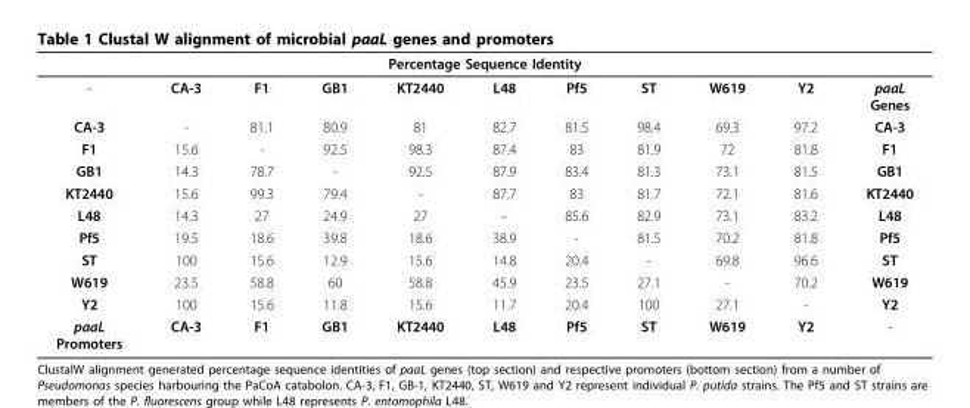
<table><thead><tr><td colspan="11">Percentage Sequence Identity</td></tr><tr><td>-</td><td>CA-3</td><td>F1</td><td>GB1</td><td>KT2440</td><td>L48</td><td>Pf5</td><td>ST</td><td>W619</td><td>Y2</td><td>paaL Genes</td></tr></thead><tbody><tr><td>CA-3</td><td>-</td><td>81.1</td><td>80.9</td><td>81</td><td>82.7</td><td>81.5</td><td>98.4</td><td>69.3</td><td>97.2</td><td>CA-3</td></tr><tr><td>F1</td><td>15.6</td><td>-</td><td>92.5</td><td>98.3</td><td>87.4</td><td>83</td><td>81.9</td><td>72</td><td>81.8</td><td>F1</td></tr><tr><td>GB1</td><td>14.3</td><td>78.7</td><td>-</td><td>92.5</td><td>87.9</td><td>83.4</td><td>81.3</td><td>73.1</td><td>81.5</td><td>GB1</td></tr><tr><td>KT2440</td><td>15.6</td><td>99.3</td><td>79.4</td><td>-</td><td>87.7</td><td>83</td><td>81.7</td><td>72.1</td><td>81.6</td><td>KT2440</td></tr><tr><td>L48</td><td>14.3</td><td>27</td><td>24.9</td><td>27</td><td>-</td><td>85.6</td><td>82.9</td><td>73.1</td><td>83.2</td><td>L48</td></tr><tr><td>Pf5</td><td>19.5</td><td>18.6</td><td>39.8</td><td>18.6</td><td>38.9</td><td>-</td><td>81.5</td><td>70.2</td><td>81.8</td><td>Pf5</td></tr><tr><td>ST</td><td>100</td><td>15.6</td><td>12.9</td><td>15.6</td><td>14.8</td><td>20.4</td><td>-</td><td>69.8</td><td>96.6</td><td>ST</td></tr><tr><td>W619</td><td>23.5</td><td>58.8</td><td>60</td><td>58.8</td><td>45.9</td><td>23.5</td><td>27.1</td><td>-</td><td>70.2</td><td>W619</td></tr><tr><td>Y2</td><td>100</td><td>15.6</td><td>11.8</td><td>15.6</td><td>11.7</td><td>20.4</td><td>100</td><td>27.1</td><td>-</td><td>Y2</td></tr><tr><td>paaL Promoters</td><td>CA-3</td><td>F1</td><td>GB1</td><td>KT2440</td><td>L48</td><td>Pf5</td><td>ST</td><td>W619</td><td>Y2</td><td>-</td></tr></tbody></table>